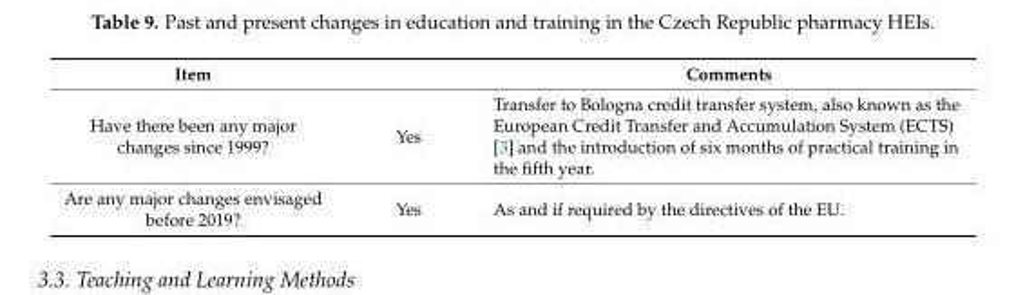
<table><thead><tr><td>Item</td><td></td><td>Comments</td></tr></thead><tbody><tr><td>Have there been any major changes since 1999?</td><td>Yes</td><td>Transfer to Bologna credit transfer system, also known as the European Credit Transfer and Accumulation System (ECTS) [3] and the introduction of six months of practical training in the fifth year.</td></tr><tr><td>Are any major changes envisaged before 2019?</td><td>Yes</td><td>As and if required by the directives of the EU.</td></tr></tbody></table>